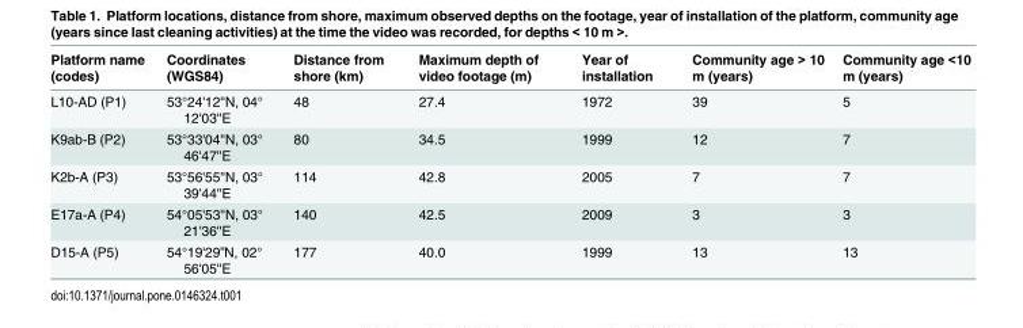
<table><thead><tr><td>Platform name (codes)</td><td>Coordinates (WGS84)</td><td>Distance from shore (km)</td><td>Maximum depth of video footage (m)</td><td>Year of installation</td><td>Community age &gt; 10 m (years)</td><td>Community age &lt;10 m (years)</td></tr></thead><tbody><tr><td>L10-AD (P1)</td><td>53°24&#x27;12&#x27;&#x27;N, 04° 12&#x27;03&#x27;&#x27;E</td><td>48</td><td>27.4</td><td>1972</td><td>39</td><td>5</td></tr><tr><td>K9ab-B (P2)</td><td>53°33&#x27;04&#x27;&#x27;N, 03° 46&#x27;47&#x27;&#x27;E</td><td>80</td><td>34.5</td><td>1999</td><td>12</td><td>7</td></tr><tr><td>K2b-A (P3)</td><td>53°56&#x27;55&#x27;&#x27;N, 03° 39&#x27;44&#x27;&#x27;E</td><td>114</td><td>42.8</td><td>2005</td><td>7</td><td>7</td></tr><tr><td>E17a-A (P4)</td><td>54°05&#x27;53&#x27;&#x27;N, 03° 21&#x27;36&#x27;&#x27;E</td><td>140</td><td>42.5</td><td>2009</td><td>3</td><td>3</td></tr><tr><td>D15-A (P5)</td><td>54°19&#x27;29”N, 02° 56&#x27;05&#x27;&#x27;E</td><td>177</td><td>40.0</td><td>1999</td><td>13</td><td>13</td></tr></tbody></table>